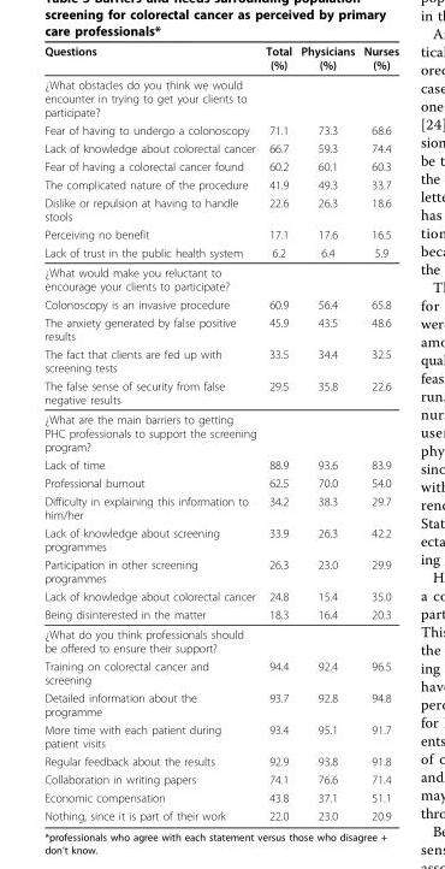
<table><thead><tr><td>Questions</td><td>Total (%)</td><td>Physicians (%)</td><td>Nurses (%)</td></tr></thead><tbody><tr><td colspan="4">¿What obstacles do you think we would encounter in trying to get your clients to participate?</td></tr><tr><td>Fear of having to undergo a colonoscopy</td><td>71.1</td><td>73.3</td><td>68.6</td></tr><tr><td>Lack of knowledge about colorectal cancer</td><td>66.7</td><td>59.3</td><td>74.4</td></tr><tr><td>Fear of having a colorectal cancer found</td><td>60.2</td><td>60.1</td><td>60.3</td></tr><tr><td>The complicated nature of the procedure</td><td>41.9</td><td>49.3</td><td>33.7</td></tr><tr><td>Dislike or repulsion at having to handle stools</td><td>22.6</td><td>26.3</td><td>18.6</td></tr><tr><td>Perceiving no benefit</td><td>17.1</td><td>17.6</td><td>16.5</td></tr><tr><td>Lack of trust in the public health system</td><td>6.2</td><td>6.4</td><td>5.9</td></tr><tr><td colspan="4">¿What would make you reluctant to encourage your clients to participate?</td></tr><tr><td>Colonoscopy is an invasive procedure</td><td>60.9</td><td>56.4</td><td>65.8</td></tr><tr><td>The anxiety generated by false positive results</td><td>45.9</td><td>43.5</td><td>48.6</td></tr><tr><td>The fact that clients are fed up with screening tests</td><td>33.5</td><td>34.4</td><td>32.5</td></tr><tr><td>The false sense of security from false negative results</td><td>29.5</td><td>35.8</td><td>22.6</td></tr><tr><td colspan="4">¿What are the main barriers to getting PHC professionals to support the screening program?</td></tr><tr><td>Lack of time</td><td>88.9</td><td>93.6</td><td>83.9</td></tr><tr><td>Professional burnout</td><td>62.5</td><td>70.0</td><td>54.0</td></tr><tr><td>Difficulty in explaining this information to him/her</td><td>34.2</td><td>38.3</td><td>29.7</td></tr><tr><td>Lack of knowledge about screening programmes</td><td>33.9</td><td>26.3</td><td>42.2</td></tr><tr><td>Participation in other screening programmes</td><td>26.3</td><td>23.0</td><td>29.9</td></tr><tr><td>Lack of knowledge about colorectal cancer</td><td>24.8</td><td>15.4</td><td>35.0</td></tr><tr><td>Being disinterested in the matter</td><td>18.3</td><td>16.4</td><td>20.3</td></tr><tr><td colspan="4">¿What do you think professionals should be offered to ensure their support?</td></tr><tr><td>Training on colorectal cancer and screening</td><td>94.4</td><td>92.4</td><td>96.5</td></tr><tr><td>Detailed information about the programme</td><td>93.7</td><td>92.8</td><td>94.8</td></tr><tr><td>More time with each patient during patient visits</td><td>93.4</td><td>95.1</td><td>91.7</td></tr><tr><td>Regular feedback about the results</td><td>92.9</td><td>93.8</td><td>91.8</td></tr><tr><td>Collaboration in writing papers</td><td>74.1</td><td>76.6</td><td>71.4</td></tr><tr><td>Economic compensation</td><td>43.8</td><td>37.1</td><td>51.1</td></tr><tr><td>Nothing, since it is part of their work</td><td>22.0</td><td>23.0</td><td>20.9</td></tr></tbody></table>